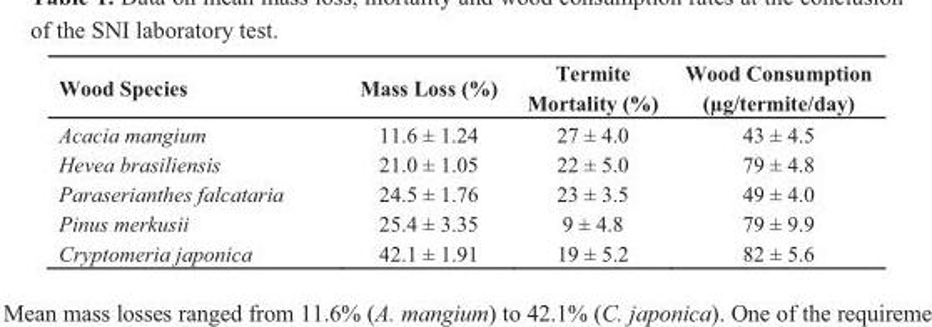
<table><thead><tr><td>Wood Species</td><td>Mass Loss (%)</td><td>Termite Mortality (%)</td><td>Wood Consumption (µg/termite/day)</td></tr></thead><tbody><tr><td>Acacia mangium</td><td>11.6 ± 1.24</td><td>27 ± 4.0</td><td>43 ± 4.5</td></tr><tr><td>Hevea brasiliensis</td><td>21.0 ± 1.05</td><td>22 ± 5.0</td><td>79 ± 4.8</td></tr><tr><td>Paraserianthes falcataria</td><td>24.5 ± 1.76</td><td>23 ± 3.5</td><td>49 ± 4.0</td></tr><tr><td>Pinus merkusii</td><td>25.4 ± 3.35</td><td>9 ± 4.8</td><td>79 ± 9.9</td></tr><tr><td>Cryptomeria japonica</td><td>42.1 ± 1.91</td><td>19 ± 5.2</td><td>82 ± 5.6</td></tr></tbody></table>